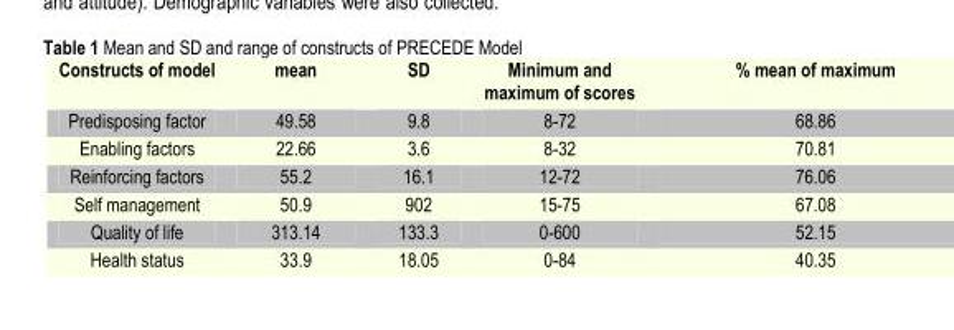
<table><thead><tr><td rowspan="7">Constructs of model Predisposing factor Enabling factors Reinforcing factors Self management Quality of life Health status</td><td rowspan="7">mean 49.58 22.66 55.2 50.9 313.14 33.9</td><td rowspan="7">SD 9.8 3.6 16.1 902 133.3 18.05</td><td rowspan="7">Minimum and maximum of scores 8-72 8-32 12-72 15-75 0-600 0-84</td><td rowspan="7">% mean of maximum 68.86 70.81 76.06 67.08 52.15 40.35</td></tr><tr></tr><tr></tr><tr></tr><tr></tr><tr></tr><tr></tr></thead><tbody></tbody></table>